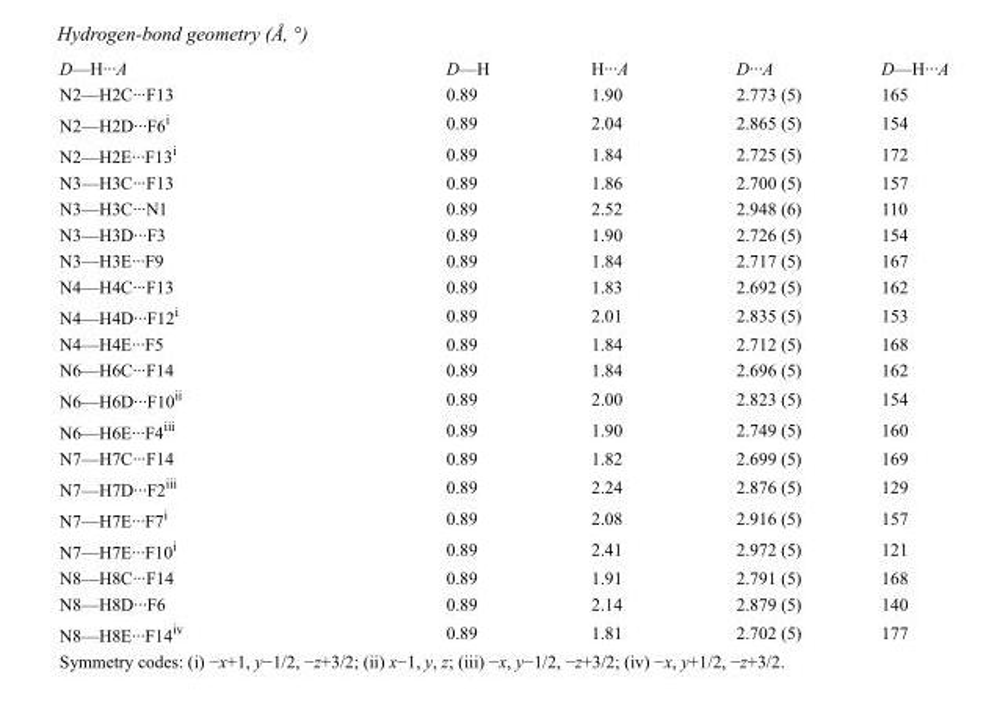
<table><tbody><tr><td>D—H···A</td><td>D—H</td><td>H···A</td><td>D···A</td><td>D—H···A</td></tr><tr><td>N2—H2C···F13</td><td>0.89</td><td>1.90</td><td>2.773 (5)</td><td>165</td></tr><tr><td>N2—H2D···F6<sup>i</sup></td><td>0.89</td><td>2.04</td><td>2.865 (5)</td><td>154</td></tr><tr><td>N2—H2E···F13<sup>i</sup></td><td>0.89</td><td>1.84</td><td>2.725 (5)</td><td>172</td></tr><tr><td>N3—H3C···F13</td><td>0.89</td><td>1.86</td><td>2.700 (5)</td><td>157</td></tr><tr><td>N3—H3C···N1</td><td>0.89</td><td>2.52</td><td>2.948 (6)</td><td>110</td></tr><tr><td>N3—H3D···F3</td><td>0.89</td><td>1.90</td><td>2.726 (5)</td><td>154</td></tr><tr><td>N3—H3E···F9</td><td>0.89</td><td>1.84</td><td>2.717 (5)</td><td>167</td></tr><tr><td>N4—H4C···F13</td><td>0.89</td><td>1.83</td><td>2.692 (5)</td><td>162</td></tr><tr><td>N4—H4D···F12<sup>i</sup></td><td>0.89</td><td>2.01</td><td>2.835 (5)</td><td>153</td></tr><tr><td>N4—H4E···F5</td><td>0.89</td><td>1.84</td><td>2.712 (5)</td><td>168</td></tr><tr><td>N6—H6C···F14</td><td>0.89</td><td>1.84</td><td>2.696 (5)</td><td>162</td></tr><tr><td>N6—H6D···F10<sup>ii</sup></td><td>0.89</td><td>2.00</td><td>2.823 (5)</td><td>154</td></tr><tr><td>N6—H6E···F4<sup>iii</sup></td><td>0.89</td><td>1.90</td><td>2.749 (5)</td><td>160</td></tr><tr><td>N7—H7C···F14</td><td>0.89</td><td>1.82</td><td>2.699 (5)</td><td>169</td></tr><tr><td>N7—H7D···F2<sup>iii</sup></td><td>0.89</td><td>2.24</td><td>2.876 (5)</td><td>129</td></tr><tr><td>N7—H7E···F7<sup>i</sup></td><td>0.89</td><td>2.08</td><td>2.916 (5)</td><td>157</td></tr><tr><td>N7—H7E···F10<sup>i</sup></td><td>0.89</td><td>2.41</td><td>2.972 (5)</td><td>121</td></tr><tr><td>N8—H8C···F14</td><td>0.89</td><td>1.91</td><td>2.791 (5)</td><td>168</td></tr><tr><td>N8—H8D···F6</td><td>0.89</td><td>2.14</td><td>2.879 (5)</td><td>140</td></tr><tr><td>N8—H8E···F14<sup>iv</sup></td><td>0.89</td><td>1.81</td><td>2.702 (5)</td><td>177</td></tr></tbody></table>